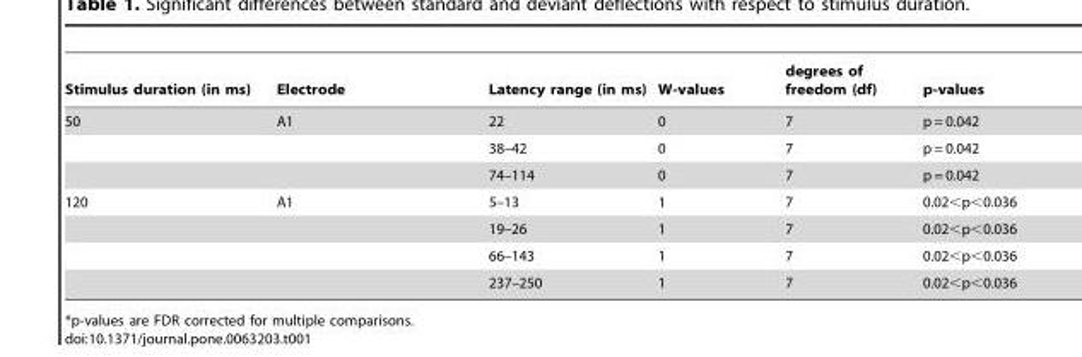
<table><thead><tr><td>Stimulus duration (in ms)</td><td>Electrode</td><td>Latency range (in ms)</td><td>W-values</td><td>degrees of freedom (df)</td><td>p-values</td></tr></thead><tbody><tr><td rowspan="3">50</td><td>A1</td><td>22</td><td>0</td><td>7</td><td>p = 0.042</td></tr><tr><td></td><td>38–42</td><td>0</td><td>7</td><td>p = 0.042</td></tr><tr><td></td><td>74–114</td><td>0</td><td>7</td><td>p = 0.042</td></tr><tr><td rowspan="4">120</td><td>A1</td><td>5–13</td><td>1</td><td>7</td><td>0.02&lt;p&lt;0.036</td></tr><tr><td></td><td>19–26</td><td>1</td><td>7</td><td>0.02&lt;p&lt;0.036</td></tr><tr><td></td><td>66–143</td><td>1</td><td>7</td><td>0.02&lt;p&lt;0.036</td></tr><tr><td></td><td>237–250</td><td>1</td><td>7</td><td>0.02&lt;p&lt;0.036</td></tr></tbody></table>